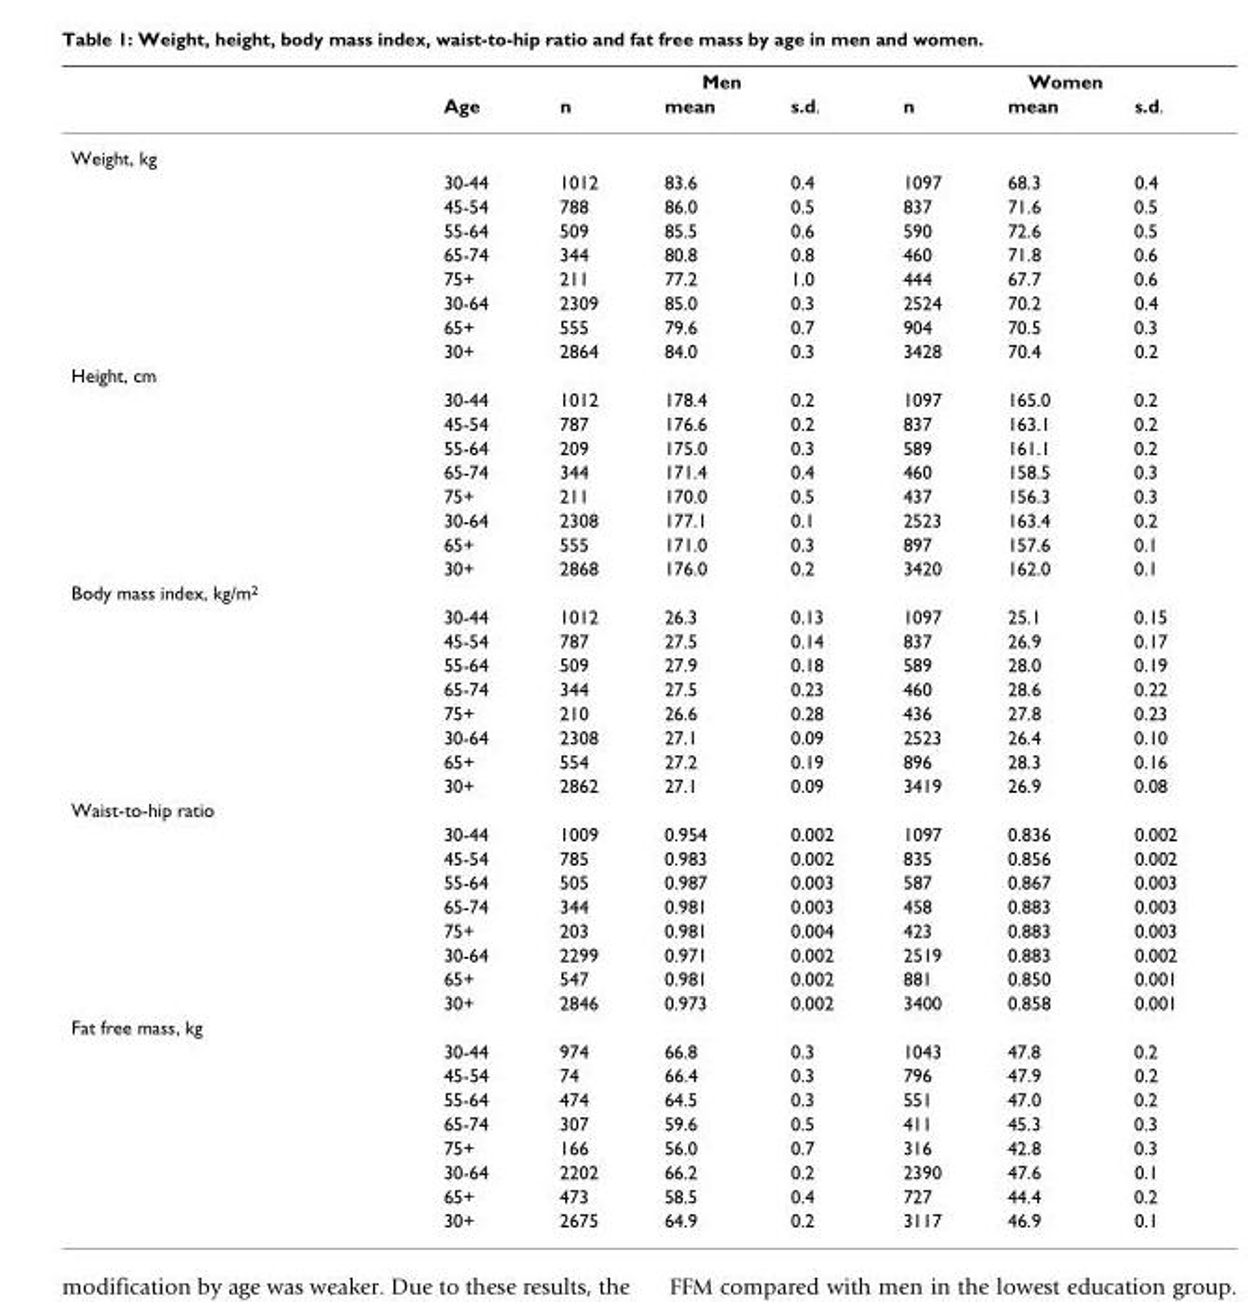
<table><thead><tr><td rowspan="2"></td><td rowspan="2">Age</td><td colspan="3">Men</td><td colspan="3">Women</td></tr><tr><td>n</td><td>mean</td><td>s.d.</td><td>n</td><td>mean</td><td>s.d.</td></tr></thead><tbody><tr><td colspan="8">Weight, kg</td></tr><tr><td></td><td>30-44</td><td>1012</td><td>83.6</td><td>0.4</td><td>1097</td><td>68.3</td><td>0.4</td></tr><tr><td></td><td>45-54</td><td>788</td><td>86.0</td><td>0.5</td><td>837</td><td>71.6</td><td>0.5</td></tr><tr><td></td><td>55-64</td><td>509</td><td>85.5</td><td>0.6</td><td>590</td><td>72.6</td><td>0.5</td></tr><tr><td></td><td>65-74</td><td>344</td><td>80.8</td><td>0.8</td><td>460</td><td>71.8</td><td>0.6</td></tr><tr><td></td><td>75+</td><td>211</td><td>77.2</td><td>1.0</td><td>444</td><td>67.7</td><td>0.6</td></tr><tr><td></td><td>30-64</td><td>2309</td><td>85.0</td><td>0.3</td><td>2524</td><td>70.2</td><td>0.4</td></tr><tr><td></td><td>65+</td><td>555</td><td>79.6</td><td>0.7</td><td>904</td><td>70.5</td><td>0.3</td></tr><tr><td></td><td>30+</td><td>2864</td><td>84.0</td><td>0.3</td><td>3428</td><td>70.4</td><td>0.2</td></tr><tr><td colspan="8">Height, cm</td></tr><tr><td></td><td>30-44</td><td>1012</td><td>178.4</td><td>0.2</td><td>1097</td><td>165.0</td><td>0.2</td></tr><tr><td></td><td>45-54</td><td>787</td><td>176.6</td><td>0.2</td><td>837</td><td>163.1</td><td>0.2</td></tr><tr><td></td><td>55-64</td><td>209</td><td>175.0</td><td>0.3</td><td>589</td><td>161.1</td><td>0.2</td></tr><tr><td></td><td>65-74</td><td>344</td><td>171.4</td><td>0.4</td><td>460</td><td>158.5</td><td>0.3</td></tr><tr><td></td><td>75+</td><td>211</td><td>170.0</td><td>0.5</td><td>437</td><td>156.3</td><td>0.3</td></tr><tr><td></td><td>30-64</td><td>2308</td><td>177.1</td><td>0.1</td><td>2523</td><td>163.4</td><td>0.2</td></tr><tr><td></td><td>65+</td><td>555</td><td>171.0</td><td>0.3</td><td>897</td><td>157.6</td><td>0.1</td></tr><tr><td></td><td>30+</td><td>2868</td><td>176.0</td><td>0.2</td><td>3420</td><td>162.0</td><td>0.1</td></tr><tr><td colspan="8">Body mass index, kg/m<sup>2</sup></td></tr><tr><td></td><td>30-44</td><td>1012</td><td>26.3</td><td>0.13</td><td>1097</td><td>25.1</td><td>0.15</td></tr><tr><td></td><td>45-54</td><td>787</td><td>27.5</td><td>0.14</td><td>837</td><td>26.9</td><td>0.17</td></tr><tr><td></td><td>55-64</td><td>509</td><td>27.9</td><td>0.18</td><td>589</td><td>28.0</td><td>0.19</td></tr><tr><td></td><td>65-74</td><td>344</td><td>27.5</td><td>0.23</td><td>460</td><td>28.6</td><td>0.22</td></tr><tr><td></td><td>75+</td><td>210</td><td>26.6</td><td>0.28</td><td>436</td><td>27.8</td><td>0.23</td></tr><tr><td></td><td>30-64</td><td>2308</td><td>27.1</td><td>0.09</td><td>2523</td><td>26.4</td><td>0.10</td></tr><tr><td></td><td>65+</td><td>554</td><td>27.2</td><td>0.19</td><td>896</td><td>28.3</td><td>0.16</td></tr><tr><td></td><td>30+</td><td>2862</td><td>27.1</td><td>0.09</td><td>3419</td><td>26.9</td><td>0.08</td></tr><tr><td colspan="8">Waist-to-hip ratio</td></tr><tr><td></td><td>30-44</td><td>1009</td><td>0.954</td><td>0.002</td><td>1097</td><td>0.836</td><td>0.002</td></tr><tr><td></td><td>45-54</td><td>785</td><td>0.983</td><td>0.002</td><td>835</td><td>0.856</td><td>0.002</td></tr><tr><td></td><td>55-64</td><td>505</td><td>0.987</td><td>0.003</td><td>587</td><td>0.867</td><td>0.003</td></tr><tr><td></td><td>65-74</td><td>344</td><td>0.981</td><td>0.003</td><td>458</td><td>0.883</td><td>0.003</td></tr><tr><td></td><td>75+</td><td>203</td><td>0.981</td><td>0.004</td><td>423</td><td>0.883</td><td>0.003</td></tr><tr><td></td><td>30-64</td><td>2299</td><td>0.971</td><td>0.002</td><td>2519</td><td>0.883</td><td>0.002</td></tr><tr><td></td><td>65+</td><td>547</td><td>0.981</td><td>0.002</td><td>881</td><td>0.850</td><td>0.001</td></tr><tr><td></td><td>30+</td><td>2846</td><td>0.973</td><td>0.002</td><td>3400</td><td>0.858</td><td>0.001</td></tr><tr><td colspan="8">Fat free mass, kg</td></tr><tr><td></td><td>30-44</td><td>974</td><td>66.8</td><td>0.3</td><td>1043</td><td>47.8</td><td>0.2</td></tr><tr><td></td><td>45-54</td><td>74</td><td>66.4</td><td>0.3</td><td>796</td><td>47.9</td><td>0.2</td></tr><tr><td></td><td>55-64</td><td>474</td><td>64.5</td><td>0.3</td><td>551</td><td>47.0</td><td>0.2</td></tr><tr><td></td><td>65-74</td><td>307</td><td>59.6</td><td>0.5</td><td>411</td><td>45.3</td><td>0.3</td></tr><tr><td></td><td>75+</td><td>166</td><td>56.0</td><td>0.7</td><td>316</td><td>42.8</td><td>0.3</td></tr><tr><td></td><td>30-64</td><td>2202</td><td>66.2</td><td>0.2</td><td>2390</td><td>47.6</td><td>0.1</td></tr><tr><td></td><td>65+</td><td>473</td><td>58.5</td><td>0.4</td><td>727</td><td>44.4</td><td>0.2</td></tr><tr><td></td><td>30+</td><td>2675</td><td>64.9</td><td>0.2</td><td>3117</td><td>46.9</td><td>0.1</td></tr></tbody></table>